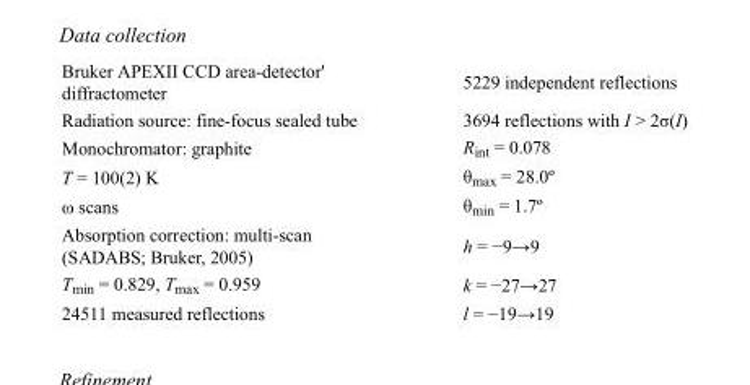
<table><tbody><tr><td>Bruker APEXII CCD area-detector&#x27; diffractometer</td><td>5229 independent reflections</td></tr><tr><td>Radiation source: fine-focus sealed tube</td><td>3694 reflections with I &gt; 2σ(I)</td></tr><tr><td>Monochromator: graphite</td><td>R<sub>int</sub> = 0.078</td></tr><tr><td>T = 100(2) K</td><td>θ<sub>max</sub> = 28.0º</td></tr><tr><td>ω scans</td><td>θ<sub>min</sub> = 1.7º</td></tr><tr><td>Absorption correction: multi-scan (SADABS; Bruker, 2005)</td><td>h = −9→9</td></tr><tr><td>T<sub>min</sub> = 0.829, T<sub>max</sub> = 0.959</td><td>k = −27→27</td></tr><tr><td>24511 measured reflections</td><td>l = −19→19</td></tr></tbody></table>